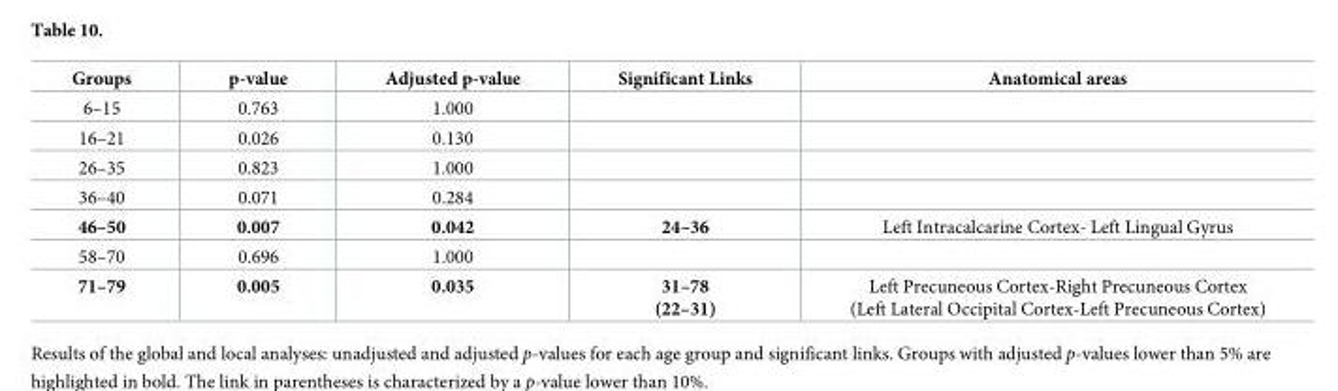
<table><thead><tr><td>Groups</td><td>p-value</td><td>Adjusted p-value</td><td>Significant Links</td><td>Anatomical areas</td></tr></thead><tbody><tr><td>6–15</td><td>0.763</td><td>1.000</td><td></td><td></td></tr><tr><td>16–21</td><td>0.026</td><td>0.130</td><td></td><td></td></tr><tr><td>26–35</td><td>0.823</td><td>1.000</td><td></td><td></td></tr><tr><td>36–40</td><td>0.071</td><td>0.284</td><td></td><td></td></tr><tr><td>46–50</td><td>0.007</td><td>0.042</td><td>24–36</td><td>Left Intracalcarine Cortex- Left Lingual Gyrus</td></tr><tr><td>58–70</td><td>0.696</td><td>1.000</td><td></td><td></td></tr><tr><td>71–79</td><td>0.005</td><td>0.035</td><td>31–78 (22–31)</td><td>Left Precuneous Cortex-Right Precuneous Cortex (Left Lateral Occipital Cortex-Left Precuneous Cortex)</td></tr></tbody></table>